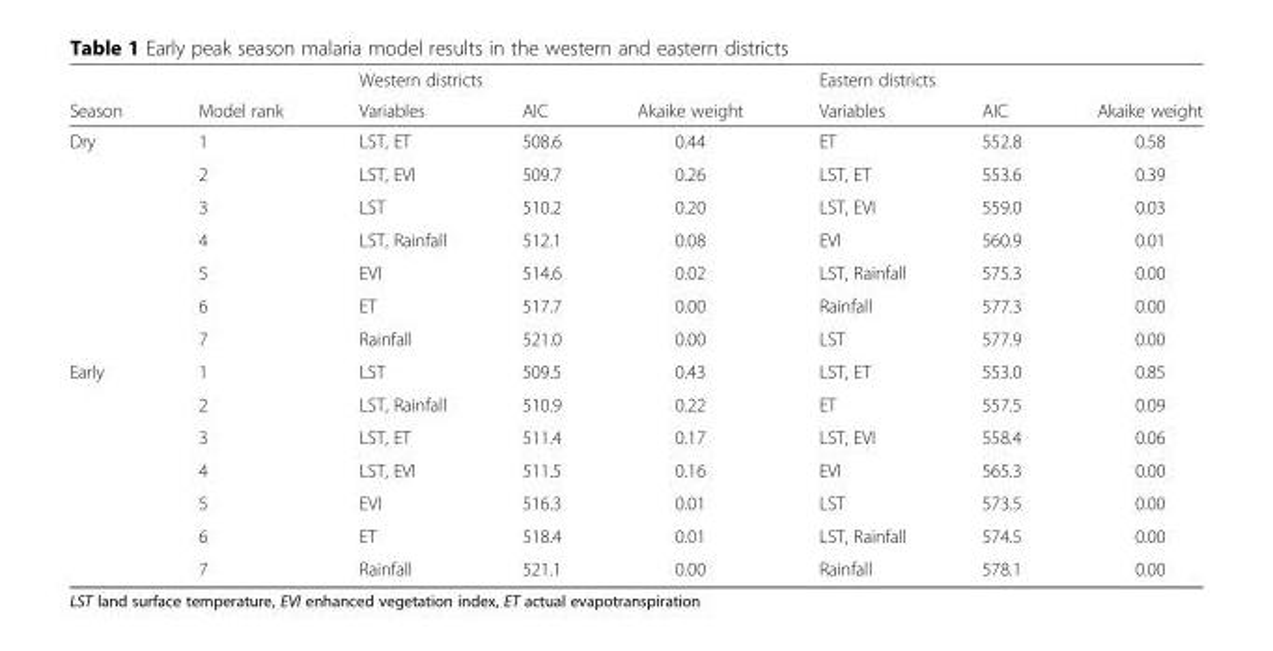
<table><thead><tr><td rowspan="2">Season</td><td rowspan="2">Model rank</td><td colspan="3">Western districts</td><td colspan="3">Eastern districts</td></tr><tr><td>Variables</td><td>AIC</td><td>Akaike weight</td><td>Variables</td><td>AIC</td><td>Akaike weight</td></tr></thead><tbody><tr><td rowspan="7">Dry</td><td>1</td><td>LST, ET</td><td>508.6</td><td>0.44</td><td>ET</td><td>552.8</td><td>0.58</td></tr><tr><td>2</td><td>LST, EVI</td><td>509.7</td><td>0.26</td><td>LST, ET</td><td>553.6</td><td>0.39</td></tr><tr><td>3</td><td>LST</td><td>510.2</td><td>0.20</td><td>LST, EVI</td><td>559.0</td><td>0.03</td></tr><tr><td>4</td><td>LST, Rainfall</td><td>512.1</td><td>0.08</td><td>EVI</td><td>560.9</td><td>0.01</td></tr><tr><td>5</td><td>EVI</td><td>514.6</td><td>0.02</td><td>LST, Rainfall</td><td>575.3</td><td>0.00</td></tr><tr><td>6</td><td>ET</td><td>517.7</td><td>0.00</td><td>Rainfall</td><td>577.3</td><td>0.00</td></tr><tr><td>7</td><td>Rainfall</td><td>521.0</td><td>0.00</td><td>LST</td><td>577.9</td><td>0.00</td></tr><tr><td rowspan="7">Early</td><td>1</td><td>LST</td><td>509.5</td><td>0.43</td><td>LST, ET</td><td>553.0</td><td>0.85</td></tr><tr><td>2</td><td>LST, Rainfall</td><td>510.9</td><td>0.22</td><td>ET</td><td>557.5</td><td>0.09</td></tr><tr><td>3</td><td>LST, ET</td><td>511.4</td><td>0.17</td><td>LST, EVI</td><td>558.4</td><td>0.06</td></tr><tr><td>4</td><td>LST, EVI</td><td>511.5</td><td>0.16</td><td>EVI</td><td>565.3</td><td>0.00</td></tr><tr><td>5</td><td>EVI</td><td>516.3</td><td>0.01</td><td>LST</td><td>573.5</td><td>0.00</td></tr><tr><td>6</td><td>ET</td><td>518.4</td><td>0.01</td><td>LST, Rainfall</td><td>574.5</td><td>0.00</td></tr><tr><td>7</td><td>Rainfall</td><td>521.1</td><td>0.00</td><td>Rainfall</td><td>578.1</td><td>0.00</td></tr></tbody></table>